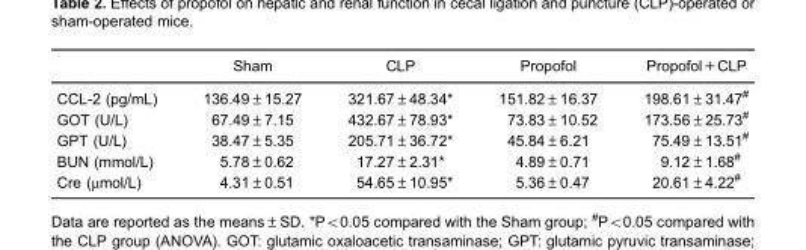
<table><thead><tr><td></td><td>Sham</td><td>CLP</td><td>Propofol</td><td>Propofol+CLP</td></tr></thead><tbody><tr><td>CCL-2 (pg/mL)</td><td>136.49±15.27</td><td>321.67±48.34*</td><td>151.82±16.37</td><td>198.61±31.47<sup>#</sup></td></tr><tr><td>GOT (U/L)</td><td>67.49±7.15</td><td>432.67±78.93*</td><td>73.83±10.52</td><td>173.56±25.73<sup>#</sup></td></tr><tr><td>GPT (U/L)</td><td>38.47±5.35</td><td>205.71±36.72*</td><td>45.84±6.21</td><td>75.49±13.51<sup>#</sup></td></tr><tr><td>BUN (mmol/L)</td><td>5.78±0.62</td><td>17.27±2.31*</td><td>4.89±0.71</td><td>9.12±1.68<sup>#</sup></td></tr><tr><td>Cre (μmol/L)</td><td>4.31±0.51</td><td>54.65±10.95*</td><td>5.36±0.47</td><td>20.61±4.22<sup>#</sup></td></tr></tbody></table>